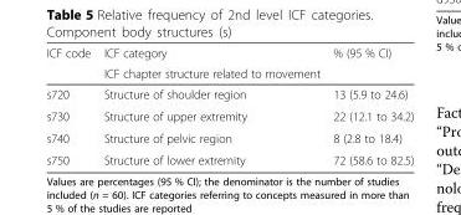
<table><thead><tr><td rowspan="2">ICF code</td><td rowspan="2">ICF category ICF chapter structure related to movement</td><td rowspan="2">% (95 % CI)</td></tr><tr></tr></thead><tbody><tr><td>s720</td><td>Structure of shoulder region</td><td>13 (5.9 to 24.6)</td></tr><tr><td>s730</td><td>Structure of upper extremity</td><td>22 (12.1 to 34.2)</td></tr><tr><td>s740</td><td>Structure of pelvic region</td><td>8 (2.8 to 18.4)</td></tr><tr><td>s750</td><td>Structure of lower extremity</td><td>72 (58.6 to 82.5)</td></tr></tbody></table>